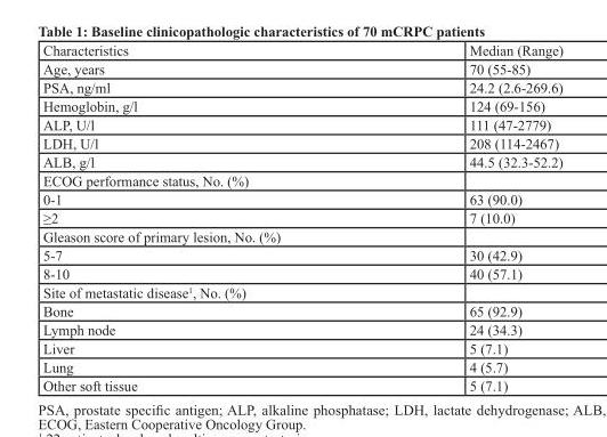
<table><thead><tr><td>Characteristics</td><td>Median (Range)</td></tr></thead><tbody><tr><td>Age, years</td><td>70 (55-85)</td></tr><tr><td>PSA, ng/ml</td><td>24.2 (2.6-269.6)</td></tr><tr><td>Hemoglobin, g/l</td><td>124 (69-156)</td></tr><tr><td>ALP, U/l</td><td>111 (47-2779)</td></tr><tr><td>LDH, U/l</td><td>208 (114-2467)</td></tr><tr><td>ALB, g/l</td><td>44.5 (32.3-52.2)</td></tr><tr><td colspan="2">ECOG performance status, No. (%)</td></tr><tr><td>0-1</td><td>63 (90.0)</td></tr><tr><td>≥2</td><td>7 (10.0)</td></tr><tr><td colspan="2">Gleason score of primary lesion, No. (%)</td></tr><tr><td>5-7</td><td>30 (42.9)</td></tr><tr><td>8-10</td><td>40 (57.1)</td></tr><tr><td colspan="2">Site of metastatic disease<sup>1</sup>, No. (%)</td></tr><tr><td>Bone</td><td>65 (92.9)</td></tr><tr><td>Lymph node</td><td>24 (34.3)</td></tr><tr><td>Liver</td><td>5 (7.1)</td></tr><tr><td>Lung</td><td>4 (5.7)</td></tr><tr><td>Other soft tissue</td><td>5 (7.1)</td></tr></tbody></table>